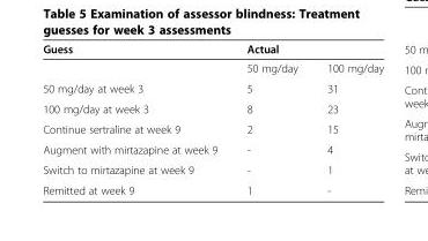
<table><thead><tr><td rowspan="2">Guess</td><td colspan="2">Actual</td></tr><tr><td>50 mg/day</td><td>100 mg/day</td></tr></thead><tbody><tr><td>50 mg/day at week 3</td><td>5</td><td>31</td></tr><tr><td>100 mg/day at week 3</td><td>8</td><td>23</td></tr><tr><td>Continue sertraline at week 9</td><td>2</td><td>15</td></tr><tr><td>Augment with mirtazapine at week 9</td><td>-</td><td>4</td></tr><tr><td>Switch to mirtazapine at week 9</td><td>-</td><td>1</td></tr><tr><td>Remitted at week 9</td><td>1</td><td>-</td></tr></tbody></table>